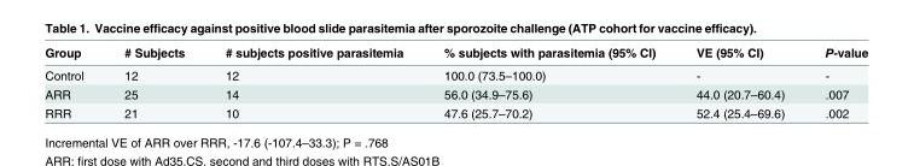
<table><thead><tr><td>Group</td><td># Subjects</td><td># subjects positive parasitemia</td><td>% subjects with parasitemia (95% CI)</td><td>VE (95% CI)</td><td>P-value</td></tr></thead><tbody><tr><td>Control</td><td>12</td><td>12</td><td>100.0 (73.5–100.0)</td><td>-</td><td>-</td></tr><tr><td>ARR</td><td>25</td><td>14</td><td>56.0 (34.9–75.6)</td><td>44.0 (20.7–60.4)</td><td>.007</td></tr><tr><td>RRR</td><td>21</td><td>10</td><td>47.6 (25.7–70.2)</td><td>52.4 (25.4–69.6)</td><td>.002</td></tr></tbody></table>